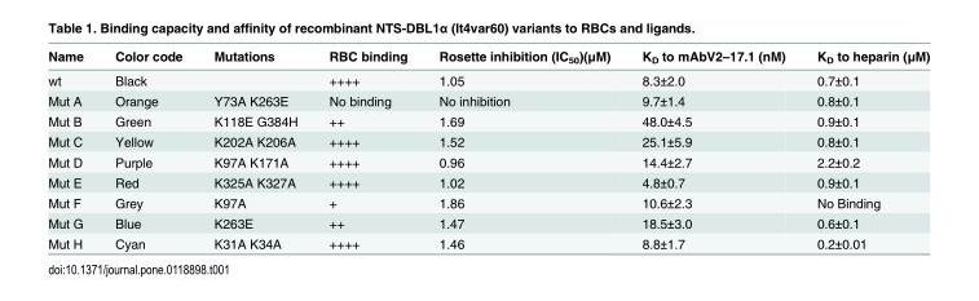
<table><thead><tr><td>Name</td><td>Color code</td><td>Mutations</td><td>RBC binding</td><td>Rosette inhibition (IC<sub>50</sub>)(μM)</td><td>K<sub>D</sub> to mAbV2–17.1 (nM)</td><td>K<sub>D</sub> to heparin (μM)</td></tr></thead><tbody><tr><td>wt</td><td>Black</td><td></td><td>++++</td><td>1.05</td><td>8.3±2.0</td><td>0.7±0.1</td></tr><tr><td>Mut A</td><td>Orange</td><td>Y73A K263E</td><td>No binding</td><td>No inhibition</td><td>9.7±1.4</td><td>0.8±0.1</td></tr><tr><td>Mut B</td><td>Green</td><td>K118E G384H</td><td>++</td><td>1.69</td><td>48.0±4.5</td><td>0.9±0.1</td></tr><tr><td>Mut C</td><td>Yellow</td><td>K202A K206A</td><td>++++</td><td>1.52</td><td>25.1±5.9</td><td>0.8±0.1</td></tr><tr><td>Mut D</td><td>Purple</td><td>K97A K171A</td><td>++++</td><td>0.96</td><td>14.4±2.7</td><td>2.2±0.2</td></tr><tr><td>Mut E</td><td>Red</td><td>K325A K327A</td><td>++++</td><td>1.02</td><td>4.8±0.7</td><td>0.9±0.1</td></tr><tr><td>Mut F</td><td>Grey</td><td>K97A</td><td>+</td><td>1.86</td><td>10.6±2.3</td><td>No Binding</td></tr><tr><td>Mut G</td><td>Blue</td><td>K263E</td><td>++</td><td>1.47</td><td>18.5±3.0</td><td>0.6±0.1</td></tr><tr><td>Mut H</td><td>Cyan</td><td>K31A K34A</td><td>++++</td><td>1.46</td><td>8.8±1.7</td><td>0.2±0.01</td></tr></tbody></table>